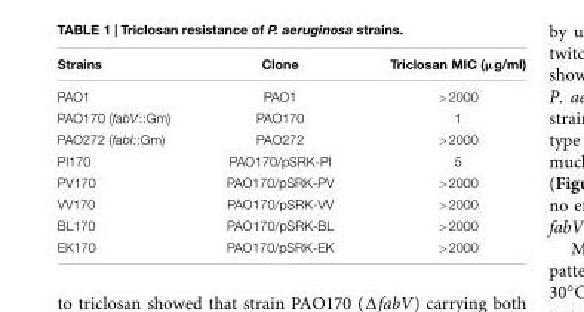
<table><thead><tr><td>Strains</td><td>Clone</td><td>Triclosan MIC (µg/ml)</td></tr></thead><tbody><tr><td>PAO1</td><td>PAO1</td><td>&gt;2000</td></tr><tr><td>PAO170 (fabV::Gm)</td><td>PAO170</td><td>1</td></tr><tr><td>PAO272 (fabI::Gm)</td><td>PAO272</td><td>&gt;2000</td></tr><tr><td>PI170</td><td>PAO170/pSRK-PI</td><td>5</td></tr><tr><td>PV170</td><td>PAO170/pSRK-PV</td><td>&gt;2000</td></tr><tr><td>VV170</td><td>PAO170/pSRK-VV</td><td>&gt;2000</td></tr><tr><td>BL170</td><td>PAO170/pSRK-BL</td><td>&gt;2000</td></tr><tr><td>EK170</td><td>PAO170/pSRK-EK</td><td>&gt;2000</td></tr></tbody></table>